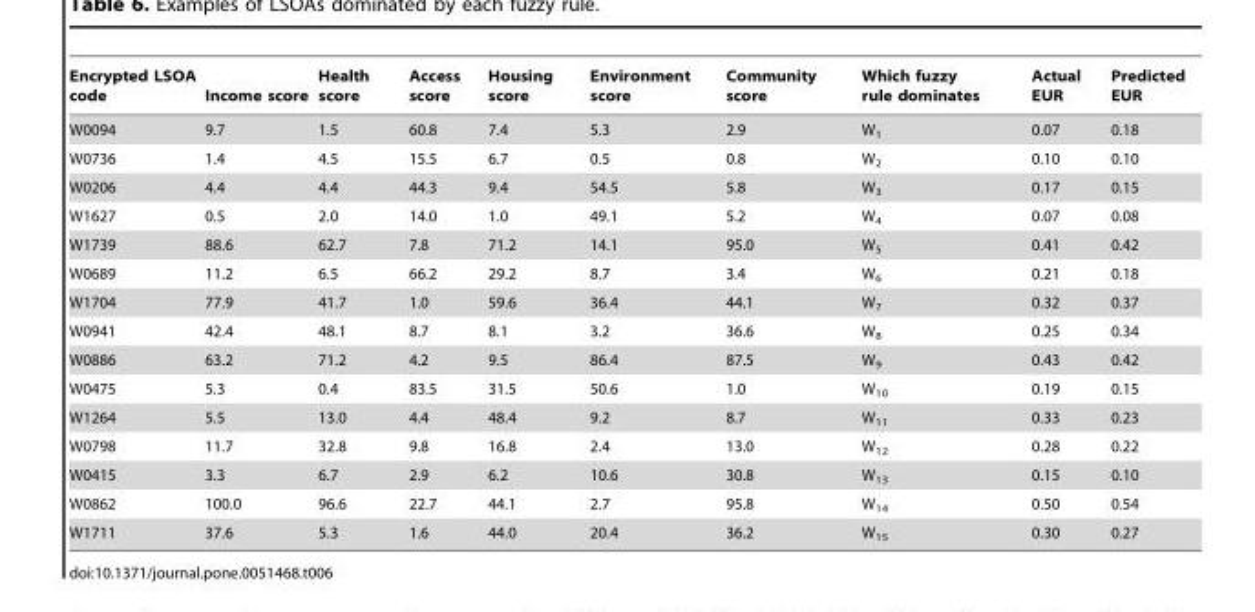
<table><thead><tr><td>Encrypted LSOA code</td><td>Income score</td><td>Health score</td><td>Access score</td><td>Housing score</td><td>Environment score</td><td>Community score</td><td>Which fuzzy rule dominates</td><td>Actual EUR</td><td>Predicted EUR</td></tr></thead><tbody><tr><td>W0094</td><td>9.7</td><td>1.5</td><td>60.8</td><td>7.4</td><td>5.3</td><td>2.9</td><td>W<sub>1</sub></td><td>0.07</td><td>0.18</td></tr><tr><td>W0736</td><td>1.4</td><td>4.5</td><td>15.5</td><td>6.7</td><td>0.5</td><td>0.8</td><td>W<sub>2</sub></td><td>0.10</td><td>0.10</td></tr><tr><td>W0206</td><td>4.4</td><td>4.4</td><td>44.3</td><td>9.4</td><td>54.5</td><td>5.8</td><td>W<sub>3</sub></td><td>0.17</td><td>0.15</td></tr><tr><td>W1627</td><td>0.5</td><td>2.0</td><td>14.0</td><td>1.0</td><td>49.1</td><td>5.2</td><td>W<sub>4</sub></td><td>0.07</td><td>0.08</td></tr><tr><td>W1739</td><td>88.6</td><td>62.7</td><td>7.8</td><td>71.2</td><td>14.1</td><td>95.0</td><td>W<sub>5</sub></td><td>0.41</td><td>0.42</td></tr><tr><td>W0689</td><td>11.2</td><td>6.5</td><td>66.2</td><td>29.2</td><td>8.7</td><td>3.4</td><td>W<sub>6</sub></td><td>0.21</td><td>0.18</td></tr><tr><td>W1704</td><td>77.9</td><td>41.7</td><td>1.0</td><td>59.6</td><td>36.4</td><td>44.1</td><td>W<sub>7</sub></td><td>0.32</td><td>0.37</td></tr><tr><td>W0941</td><td>42.4</td><td>48.1</td><td>8.7</td><td>8.1</td><td>3.2</td><td>36.6</td><td>W<sub>8</sub></td><td>0.25</td><td>0.34</td></tr><tr><td>W0886</td><td>63.2</td><td>71.2</td><td>4.2</td><td>9.5</td><td>86.4</td><td>87.5</td><td>W<sub>9</sub></td><td>0.43</td><td>0.42</td></tr><tr><td>W0475</td><td>5.3</td><td>0.4</td><td>83.5</td><td>31.5</td><td>50.6</td><td>1.0</td><td>W<sub>10</sub></td><td>0.19</td><td>0.15</td></tr><tr><td>W1264</td><td>5.5</td><td>13.0</td><td>4.4</td><td>48.4</td><td>9.2</td><td>8.7</td><td>W<sub>11</sub></td><td>0.33</td><td>0.23</td></tr><tr><td>W0798</td><td>11.7</td><td>32.8</td><td>9.8</td><td>16.8</td><td>2.4</td><td>13.0</td><td>W<sub>12</sub></td><td>0.28</td><td>0.22</td></tr><tr><td>W0415</td><td>3.3</td><td>6.7</td><td>2.9</td><td>6.2</td><td>10.6</td><td>30.8</td><td>W<sub>13</sub></td><td>0.15</td><td>0.10</td></tr><tr><td>W0862</td><td>100.0</td><td>96.6</td><td>22.7</td><td>44.1</td><td>2.7</td><td>95.8</td><td>W<sub>14</sub></td><td>0.50</td><td>0.54</td></tr><tr><td>W1711</td><td>37.6</td><td>5.3</td><td>1.6</td><td>44.0</td><td>20.4</td><td>36.2</td><td>W<sub>15</sub></td><td>0.30</td><td>0.27</td></tr></tbody></table>